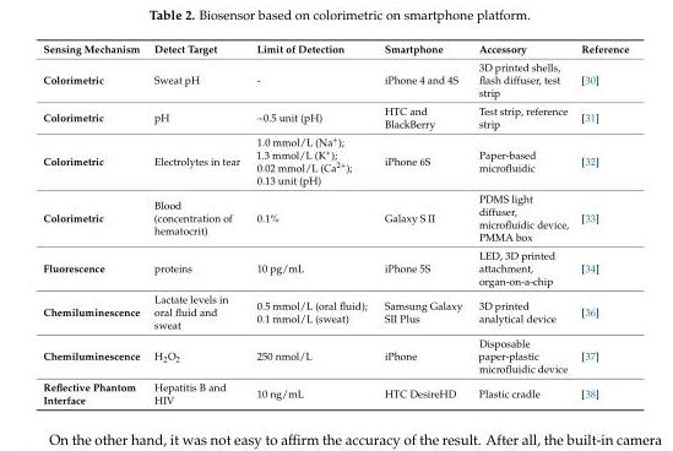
<table><thead><tr><td>Sensing Mechanism</td><td>Detect Target</td><td>Limit of Detection</td><td>Smartphone</td><td>Accessory</td><td>Reference</td></tr></thead><tbody><tr><td>Colorimetric</td><td>Sweat pH</td><td>-</td><td>iPhone 4 and 4S</td><td>3D printed shells, flash diffuser, test strip</td><td>[30]</td></tr><tr><td>Colorimetric</td><td>pH</td><td>~0.5 unit (pH)</td><td>HTC and BlackBerry</td><td>Test strip, reference strip</td><td>[31]</td></tr><tr><td>Colorimetric</td><td>Electrolytes in tear</td><td>1.0 mmol/L (Na<sup>+</sup>); 1.3 mmol/L (K<sup>+</sup>); 0.02 mmol/L (Ca<sup>2+</sup>); 0.13 unit (pH)</td><td>iPhone 6S</td><td>Paper-based microfluidic</td><td>[32]</td></tr><tr><td>Colorimetric</td><td>Blood (concentration of hematocrit)</td><td>0.1%</td><td>Galaxy S II</td><td>PDMS light diffuser, microfluidic device, PMMA box</td><td>[33]</td></tr><tr><td>Fluorescence</td><td>proteins</td><td>10 pg/mL</td><td>iPhone 5S</td><td>LED, 3D printed attachment, organ-on-a-chip</td><td>[34]</td></tr><tr><td>Chemiluminescence</td><td>Lactate levels in oral fluid and sweat</td><td>0.5 mmol/L (oral fluid); 0.1 mmol/L (sweat)</td><td>Samsung Galaxy SII Plus</td><td>3D printed analytical device</td><td>[36]</td></tr><tr><td>Chemiluminescence</td><td>H<sub>2</sub>O<sub>2</sub></td><td>250 nmol/L</td><td>iPhone</td><td>Disposable paper-plastic microfluidic device</td><td>[37]</td></tr><tr><td>Reflective Phantom Interface</td><td>Hepatitis B and HIV</td><td>10 ng/mL</td><td>HTC DesireHD</td><td>Plastic cradle</td><td>[38]</td></tr></tbody></table>